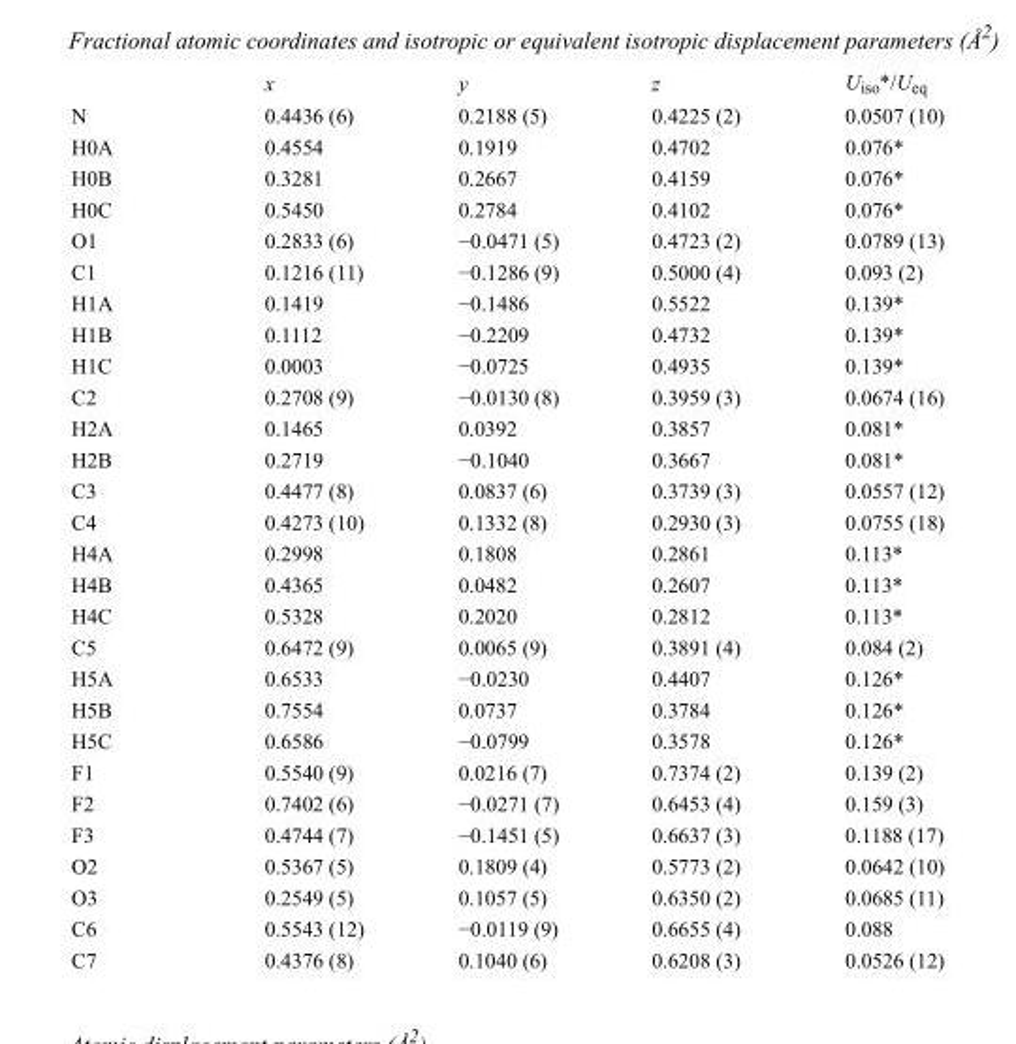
<table><thead><tr><td></td><td>x</td><td>y</td><td>z</td><td>U<sub>iso</sub>*/U<sub>eq</sub></td></tr></thead><tbody><tr><td>N</td><td>0.4436 (6)</td><td>0.2188 (5)</td><td>0.4225 (2)</td><td>0.0507 (10)</td></tr><tr><td>H0A</td><td>0.4554</td><td>0.1919</td><td>0.4702</td><td>0.076*</td></tr><tr><td>H0B</td><td>0.3281</td><td>0.2667</td><td>0.4159</td><td>0.076*</td></tr><tr><td>H0C</td><td>0.5450</td><td>0.2784</td><td>0.4102</td><td>0.076*</td></tr><tr><td>O1</td><td>0.2833 (6)</td><td>−0.0471 (5)</td><td>0.4723 (2)</td><td>0.0789 (13)</td></tr><tr><td>C1</td><td>0.1216 (11)</td><td>−0.1286 (9)</td><td>0.5000 (4)</td><td>0.093 (2)</td></tr><tr><td>H1A</td><td>0.1419</td><td>−0.1486</td><td>0.5522</td><td>0.139*</td></tr><tr><td>H1B</td><td>0.1112</td><td>−0.2209</td><td>0.4732</td><td>0.139*</td></tr><tr><td>H1C</td><td>0.0003</td><td>−0.0725</td><td>0.4935</td><td>0.139*</td></tr><tr><td>C2</td><td>0.2708 (9)</td><td>−0.0130 (8)</td><td>0.3959 (3)</td><td>0.0674 (16)</td></tr><tr><td>H2A</td><td>0.1465</td><td>0.0392</td><td>0.3857</td><td>0.081*</td></tr><tr><td>H2B</td><td>0.2719</td><td>−0.1040</td><td>0.3667</td><td>0.081*</td></tr><tr><td>C3</td><td>0.4477 (8)</td><td>0.0837 (6)</td><td>0.3739 (3)</td><td>0.0557 (12)</td></tr><tr><td>C4</td><td>0.4273 (10)</td><td>0.1332 (8)</td><td>0.2930 (3)</td><td>0.0755 (18)</td></tr><tr><td>H4A</td><td>0.2998</td><td>0.1808</td><td>0.2861</td><td>0.113*</td></tr><tr><td>H4B</td><td>0.4365</td><td>0.0482</td><td>0.2607</td><td>0.113*</td></tr><tr><td>H4C</td><td>0.5328</td><td>0.2020</td><td>0.2812</td><td>0.113*</td></tr><tr><td>C5</td><td>0.6472 (9)</td><td>0.0065 (9)</td><td>0.3891 (4)</td><td>0.084 (2)</td></tr><tr><td>H5A</td><td>0.6533</td><td>−0.0230</td><td>0.4407</td><td>0.126*</td></tr><tr><td>H5B</td><td>0.7554</td><td>0.0737</td><td>0.3784</td><td>0.126*</td></tr><tr><td>H5C</td><td>0.6586</td><td>−0.0799</td><td>0.3578</td><td>0.126*</td></tr><tr><td>F1</td><td>0.5540 (9)</td><td>0.0216 (7)</td><td>0.7374 (2)</td><td>0.139 (2)</td></tr><tr><td>F2</td><td>0.7402 (6)</td><td>−0.0271 (7)</td><td>0.6453 (4)</td><td>0.159 (3)</td></tr><tr><td>F3</td><td>0.4744 (7)</td><td>−0.1451 (5)</td><td>0.6637 (3)</td><td>0.1188 (17)</td></tr><tr><td>O2</td><td>0.5367 (5)</td><td>0.1809 (4)</td><td>0.5773 (2)</td><td>0.0642 (10)</td></tr><tr><td>O3</td><td>0.2549 (5)</td><td>0.1057 (5)</td><td>0.6350 (2)</td><td>0.0685 (11)</td></tr><tr><td>C6</td><td>0.5543 (12)</td><td>−0.0119 (9)</td><td>0.6655 (4)</td><td>0.088</td></tr><tr><td>C7</td><td>0.4376 (8)</td><td>0.1040 (6)</td><td>0.6208 (3)</td><td>0.0526 (12)</td></tr></tbody></table>